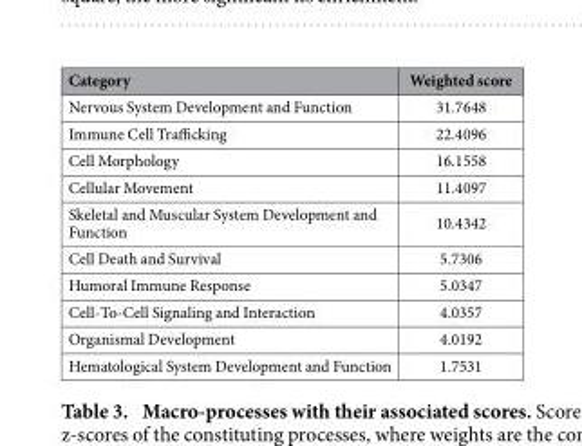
<table><thead><tr><td>Category</td><td>Weighted score</td></tr></thead><tbody><tr><td>Nervous System Development and Function</td><td>31.7648</td></tr><tr><td>Immune Cell Trafficking</td><td>22.4096</td></tr><tr><td>Cell Morphology</td><td>16.1558</td></tr><tr><td>Cellular Movement</td><td>11.4097</td></tr><tr><td>Skeletal and Muscular System Development and Function</td><td>10.4342</td></tr><tr><td>Cell Death and Survival</td><td>5.7306</td></tr><tr><td>Humoral Immune Response</td><td>5.0347</td></tr><tr><td>Cell-To-Cell Signaling and Interaction</td><td>4.0357</td></tr><tr><td>Organismal Development</td><td>4.0192</td></tr><tr><td>Hematological System Development and Function</td><td>1.7531</td></tr></tbody></table>